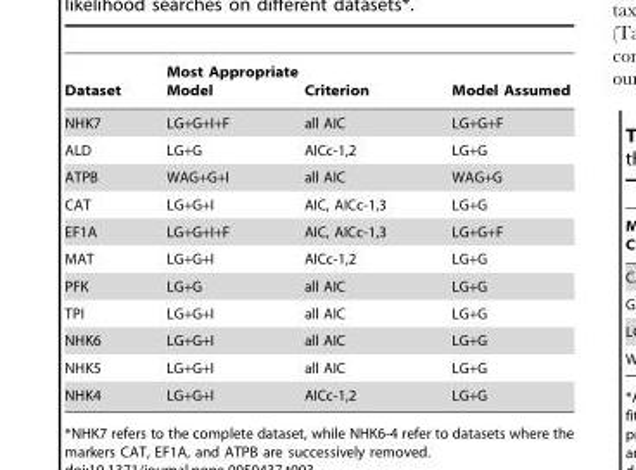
<table><thead><tr><td>Dataset</td><td>Most Appropriate Model</td><td>Criterion</td><td>Model Assumed</td></tr></thead><tbody><tr><td>NHK7</td><td>LG+G+I+F</td><td>all AIC</td><td>LG+G+F</td></tr><tr><td>ALD</td><td>LG+G</td><td>AICc-1,2</td><td>LG+G</td></tr><tr><td>ATPB</td><td>WAG+G+I</td><td>all AIC</td><td>WAG+G</td></tr><tr><td>CAT</td><td>LG+G+I</td><td>AIC, AICc-1,3</td><td>LG+G</td></tr><tr><td>EF1A</td><td>LG+G+I+F</td><td>AIC, AICc-1,3</td><td>LG+G+F</td></tr><tr><td>MAT</td><td>LG+G+I</td><td>AICc-1,2</td><td>LG+G</td></tr><tr><td>PFK</td><td>LG+G</td><td>all AIC</td><td>LG+G</td></tr><tr><td>TPI</td><td>LG+G+I</td><td>all AIC</td><td>LG+G</td></tr><tr><td>NHK6</td><td>LG+G+I</td><td>all AIC</td><td>LG+G</td></tr><tr><td>NHK5</td><td>LG+G+I</td><td>all AIC</td><td>LG+G</td></tr><tr><td>NHK4</td><td>LG+G+I</td><td>AICc-1,2</td><td>LG+G</td></tr></tbody></table>